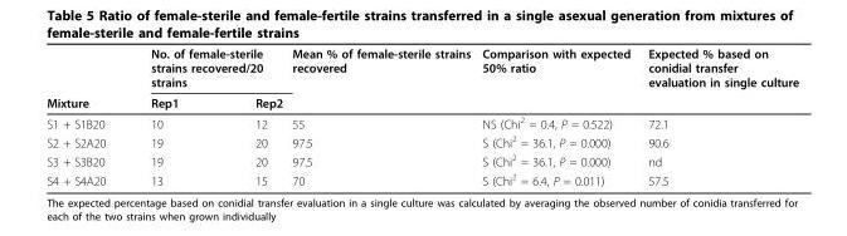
<table><thead><tr><td rowspan="2">Mixture</td><td colspan="2">No. of female-sterile strains recovered/20 strains</td><td rowspan="2">Mean % of female-sterile strains recovered</td><td rowspan="2">Comparison with expected 50% ratio</td><td rowspan="2">Expected % based on conidial transfer evaluation in single culture</td></tr><tr><td>Rep1</td><td>Rep2</td></tr></thead><tbody><tr><td>S1 + S1B20</td><td>10</td><td>12</td><td>55</td><td>NS (Chi<sup>2</sup> = 0.4, P = 0.522)</td><td>72.1</td></tr><tr><td>S2 + S2A20</td><td>19</td><td>20</td><td>97.5</td><td>S (Chi<sup>2</sup> = 36.1, P = 0.000)</td><td>90.6</td></tr><tr><td>S3 + S3B20</td><td>19</td><td>20</td><td>97.5</td><td>S (Chi<sup>2</sup> = 36.1, P = 0.000)</td><td>nd</td></tr><tr><td>S4 + S4A20</td><td>13</td><td>15</td><td>70</td><td>S (Chi<sup>2</sup> = 6.4, P = 0.011)</td><td>57.5</td></tr></tbody></table>